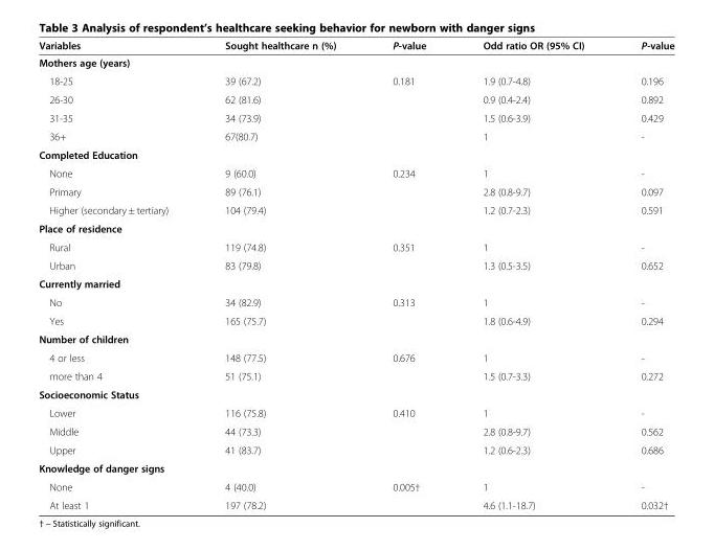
<table><thead><tr><td>Variables</td><td>Sought healthcare n (%)</td><td>P-value</td><td>Odd ratio OR (95% CI)</td><td>P-value</td></tr></thead><tbody><tr><td colspan="5">Mothers age (years)</td></tr><tr><td>18-25</td><td>39 (67.2)</td><td>0.181</td><td>1.9 (0.7-4.8)</td><td>0.196</td></tr><tr><td>26-30</td><td>62 (81.6)</td><td></td><td>0.9 (0.4-2.4)</td><td>0.892</td></tr><tr><td>31-35</td><td>34 (73.9)</td><td></td><td>1.5 (0.6-3.9)</td><td>0.429</td></tr><tr><td>36+</td><td>67(80.7)</td><td></td><td>1</td><td>-</td></tr><tr><td colspan="5">Completed Education</td></tr><tr><td>None</td><td>9 (60.0)</td><td>0.234</td><td>1</td><td>-</td></tr><tr><td>Primary</td><td>89 (76.1)</td><td></td><td>2.8 (0.8-9.7)</td><td>0.097</td></tr><tr><td>Higher (secondary ± tertiary)</td><td>104 (79.4)</td><td></td><td>1.2 (0.7-2.3)</td><td>0.591</td></tr><tr><td colspan="5">Place of residence</td></tr><tr><td>Rural</td><td>119 (74.8)</td><td>0.351</td><td>1</td><td>-</td></tr><tr><td>Urban</td><td>83 (79.8)</td><td></td><td>1.3 (0.5-3.5)</td><td>0.652</td></tr><tr><td colspan="5">Currently married</td></tr><tr><td>No</td><td>34 (82.9)</td><td>0.313</td><td>1</td><td>-</td></tr><tr><td>Yes</td><td>165 (75.7)</td><td></td><td>1.8 (0.6-4.9)</td><td>0.294</td></tr><tr><td colspan="5">Number of children</td></tr><tr><td>4 or less</td><td>148 (77.5)</td><td>0.676</td><td>1</td><td>-</td></tr><tr><td>more than 4</td><td>51 (75.1)</td><td></td><td>1.5 (0.7-3.3)</td><td>0.272</td></tr><tr><td colspan="5">Socioeconomic Status</td></tr><tr><td>Lower</td><td>116 (75.8)</td><td>0.410</td><td>1</td><td>-</td></tr><tr><td>Middle</td><td>44 (73.3)</td><td></td><td>2.8 (0.8-9.7)</td><td>0.562</td></tr><tr><td>Upper</td><td>41 (83.7)</td><td></td><td>1.2 (0.6-2.3)</td><td>0.686</td></tr><tr><td colspan="5">Knowledge of danger signs</td></tr><tr><td>None</td><td>4 (40.0)</td><td>0.005†</td><td>1</td><td>-</td></tr><tr><td>At least 1</td><td>197 (78.2)</td><td></td><td>4.6 (1.1-18.7)</td><td>0.032†</td></tr></tbody></table>